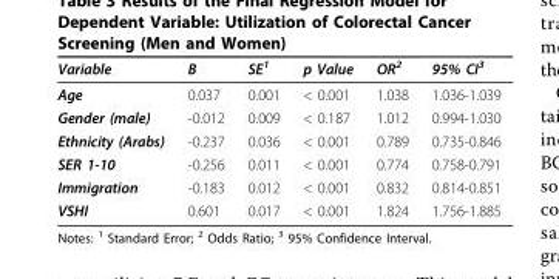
<table><thead><tr><td>Variable</td><td>B</td><td>SE<sup>1</sup></td><td>p Value</td><td>OR<sup>2</sup></td><td>95% CI<sup>3</sup></td></tr></thead><tbody><tr><td>Age</td><td>0.037</td><td>0.001</td><td>&lt; 0.001</td><td>1.038</td><td>1.036-1.039</td></tr><tr><td>Gender (male)</td><td>-0.012</td><td>0.009</td><td>&lt; 0.187</td><td>1.012</td><td>0.994-1.030</td></tr><tr><td>Ethnicity (Arabs)</td><td>-0.237</td><td>0.036</td><td>&lt; 0.001</td><td>0.789</td><td>0.735-0.846</td></tr><tr><td>SER 1-10</td><td>-0.256</td><td>0.011</td><td>&lt; 0.001</td><td>0.774</td><td>0.758-0.791</td></tr><tr><td>Immigration</td><td>-0.183</td><td>0.012</td><td>&lt; 0.001</td><td>0.832</td><td>0.814-0.851</td></tr><tr><td>VSHI</td><td>0.601</td><td>0.017</td><td>&lt; 0.001</td><td>1.824</td><td>1.756-1.885</td></tr></tbody></table>